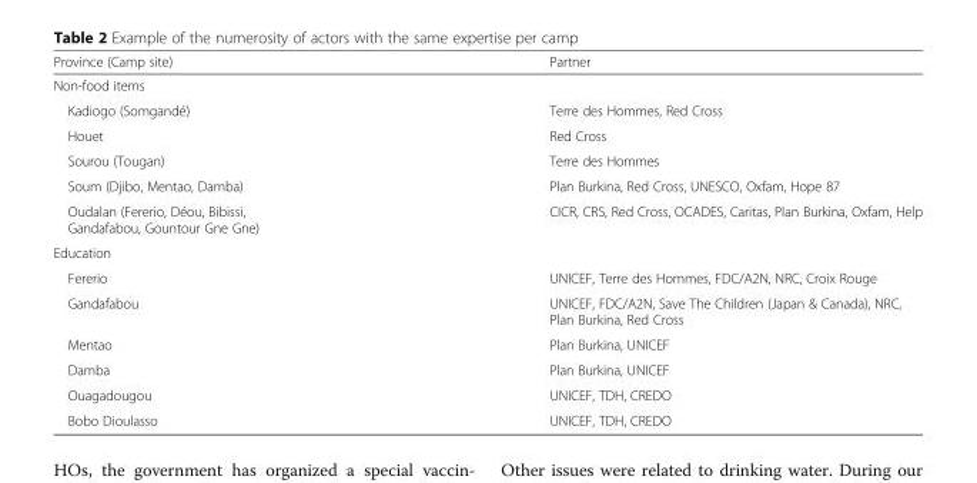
<table><thead><tr><td>Province (Camp site)</td><td>Partner</td></tr></thead><tbody><tr><td colspan="2">Non-food items</td></tr><tr><td>Kadiogo (Somgandé)</td><td>Terre des Hommes, Red Cross</td></tr><tr><td>Houet</td><td>Red Cross</td></tr><tr><td>Sourou (Tougan)</td><td>Terre des Hommes</td></tr><tr><td>Soum (Djibo, Mentao, Damba)</td><td>Plan Burkina, Red Cross, UNESCO, Oxfam, Hope 87</td></tr><tr><td>Oudalan (Fererio, Déou, Bibissi, Gandafabou, Gountour Gne Gne)</td><td>CICR, CRS, Red Cross, OCADES, Caritas, Plan Burkina, Oxfam, Help</td></tr><tr><td colspan="2">Education</td></tr><tr><td>Fererio</td><td>UNICEF, Terre des Hommes, FDC/A2N, NRC, Croix Rouge</td></tr><tr><td>Gandafabou</td><td>UNICEF, FDC/A2N, Save The Children (Japan &amp; Canada), NRC, Plan Burkina, Red Cross</td></tr><tr><td>Mentao</td><td>Plan Burkina, UNICEF</td></tr><tr><td>Damba</td><td>Plan Burkina, UNICEF</td></tr><tr><td>Ouagadougou</td><td>UNICEF, TDH, CREDO</td></tr><tr><td>Bobo Dioulasso</td><td>UNICEF, TDH, CREDO</td></tr></tbody></table>